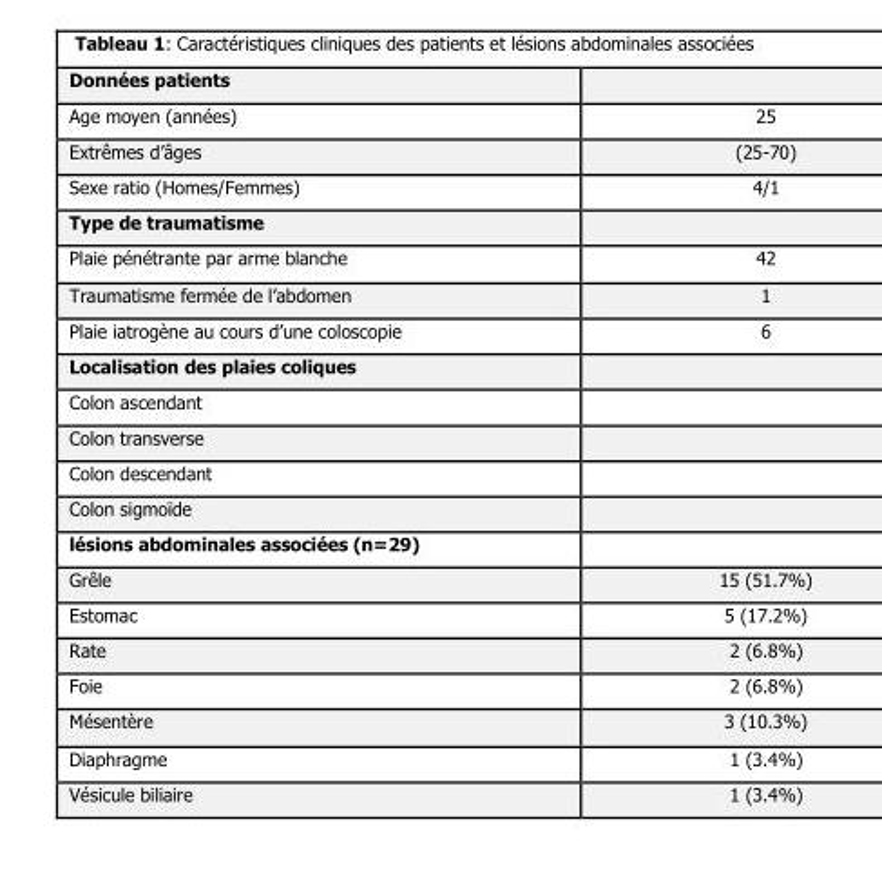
<table><tbody><tr><td colspan="2">Données patients</td></tr><tr><td>Age moyen (années)</td><td>25</td></tr><tr><td>Extrêmes d’âges</td><td>(25-70)</td></tr><tr><td>Sexe ratio (Homes/Femmes)</td><td>4/1</td></tr><tr><td colspan="2">Type de traumatisme</td></tr><tr><td>Plaie pénétrante par arme blanche</td><td>42</td></tr><tr><td>Traumatisme fermée de l’abdomen</td><td>1</td></tr><tr><td>Plaie iatrogène au cours d’une coloscopie</td><td>6</td></tr><tr><td colspan="2">Localisation des plaies coliques</td></tr><tr><td colspan="2">Colon ascendant</td></tr><tr><td colspan="2">Colon transverse</td></tr><tr><td colspan="2">Colon descendant</td></tr><tr><td colspan="2">Colon sigmoïde</td></tr><tr><td colspan="2">lésions abdominales associées (n=29)</td></tr><tr><td>Grêle</td><td>15 (51.7%)</td></tr><tr><td>Estomac</td><td>5 (17.2%)</td></tr><tr><td>Rate</td><td>2 (6.8%)</td></tr><tr><td>Foie</td><td>2 (6.8%)</td></tr><tr><td>Mésentère</td><td>3 (10.3%)</td></tr><tr><td>Diaphragme</td><td>1 (3.4%)</td></tr><tr><td>Vésicule biliaire</td><td>1 (3.4%)</td></tr></tbody></table>